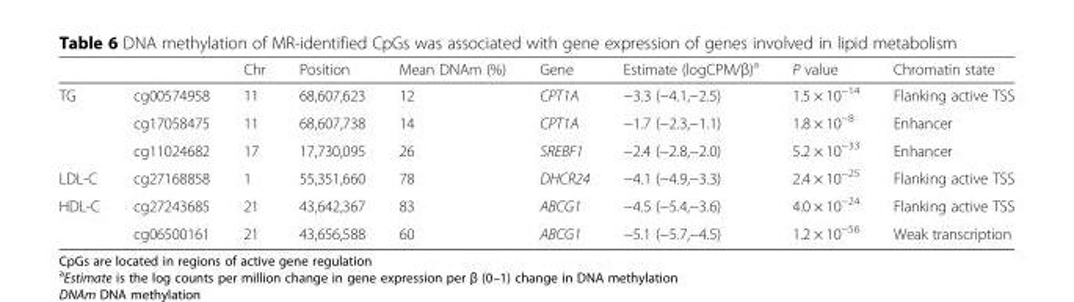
<table><thead><tr><td></td><td></td><td>Chr</td><td>Position</td><td>Mean DNAm (%)</td><td>Gene</td><td>Estimate (logCPM/β)<sup>a</sup></td><td>P value</td><td>Chromatin state</td></tr></thead><tbody><tr><td rowspan="3">TG</td><td>cg00574958</td><td>11</td><td>68,607,623</td><td>12</td><td>CPT1A</td><td>−3.3 (−4.1,−2.5)</td><td>1.5 × 10<sup>−14</sup></td><td>Flanking active TSS</td></tr><tr><td>cg17058475</td><td>11</td><td>68,607,738</td><td>14</td><td>CPT1A</td><td>−1.7 (−2.3,−1.1)</td><td>1.8 × 10<sup>−8</sup></td><td>Enhancer</td></tr><tr><td>cg11024682</td><td>17</td><td>17,730,095</td><td>26</td><td>SREBF1</td><td>−2.4 (−2.8,−2.0)</td><td>5.2 × 10<sup>−33</sup></td><td>Enhancer</td></tr><tr><td>LDL-C</td><td>cg27168858</td><td>1</td><td>55,351,660</td><td>78</td><td>DHCR24</td><td>−4.1 (−4.9,−3.3)</td><td>2.4 × 10<sup>−25</sup></td><td>Flanking active TSS</td></tr><tr><td rowspan="2">HDL-C</td><td>cg27243685</td><td>21</td><td>43,642,367</td><td>83</td><td>ABCG1</td><td>−4.5 (−5.4,−3.6)</td><td>4.0 × 10<sup>−24</sup></td><td>Flanking active TSS</td></tr><tr><td>cg06500161</td><td>21</td><td>43,656,588</td><td>60</td><td>ABCG1</td><td>−5.1 (−5.7,−4.5)</td><td>1.2 × 10<sup>−56</sup></td><td>Weak transcription</td></tr></tbody></table>